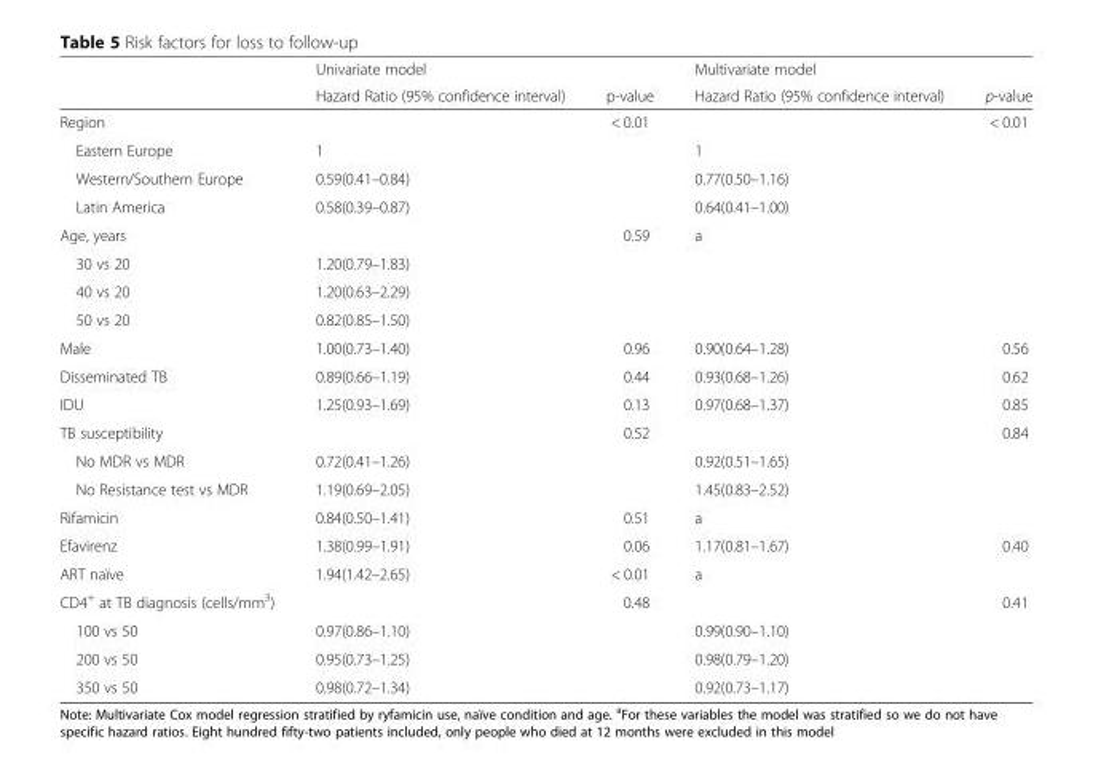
<table><thead><tr><td rowspan="2"></td><td rowspan="2">Univariate model Hazard Ratio (95% confidence interval)</td><td rowspan="2">p-value</td><td rowspan="2">Multivariate model Hazard Ratio (95% confidence interval)</td><td rowspan="2">p-value</td></tr><tr></tr></thead><tbody><tr><td>Region</td><td></td><td>&lt; 0.01</td><td></td><td>&lt; 0.01</td></tr><tr><td>Eastern Europe</td><td>1</td><td></td><td>1</td><td></td></tr><tr><td>Western/Southern Europe</td><td>0.59(0.41–0.84)</td><td></td><td>0.77(0.50–1.16)</td><td></td></tr><tr><td>Latin America</td><td>0.58(0.39–0.87)</td><td></td><td>0.64(0.41–1.00)</td><td></td></tr><tr><td>Age, years</td><td></td><td>0.59</td><td>a</td><td></td></tr><tr><td>30 vs 20</td><td>1.20(0.79–1.83)</td><td></td><td></td><td></td></tr><tr><td>40 vs 20</td><td>1.20(0.63–2.29)</td><td></td><td></td><td></td></tr><tr><td>50 vs 20</td><td>0.82(0.85–1.50)</td><td></td><td></td><td></td></tr><tr><td>Male</td><td>1.00(0.73–1.40)</td><td>0.96</td><td>0.90(0.64–1.28)</td><td>0.56</td></tr><tr><td>Disseminated TB</td><td>0.89(0.66–1.19)</td><td>0.44</td><td>0.93(0.68–1.26)</td><td>0.62</td></tr><tr><td>IDU</td><td>1.25(0.93–1.69)</td><td>0.13</td><td>0.97(0.68–1.37)</td><td>0.85</td></tr><tr><td>TB susceptibility</td><td></td><td>0.52</td><td></td><td>0.84</td></tr><tr><td>No MDR vs MDR</td><td>0.72(0.41–1.26)</td><td></td><td>0.92(0.51–1.65)</td><td></td></tr><tr><td>No Resistance test vs MDR</td><td>1.19(0.69–2.05)</td><td></td><td>1.45(0.83–2.52)</td><td></td></tr><tr><td>Rifamicin</td><td>0.84(0.50–1.41)</td><td>0.51</td><td>a</td><td></td></tr><tr><td>Efavirenz</td><td>1.38(0.99–1.91)</td><td>0.06</td><td>1.17(0.81–1.67)</td><td>0.40</td></tr><tr><td>ART naïve</td><td>1.94(1.42–2.65)</td><td>&lt; 0.01</td><td>a</td><td></td></tr><tr><td>CD4<sup>+</sup> at TB diagnosis (cells/mm<sup>3</sup>)</td><td></td><td>0.48</td><td></td><td>0.41</td></tr><tr><td>100 vs 50</td><td>0.97(0.86–1.10)</td><td></td><td>0.99(0.90–1.10)</td><td></td></tr><tr><td>200 vs 50</td><td>0.95(0.73–1.25)</td><td></td><td>0.98(0.79–1.20)</td><td></td></tr><tr><td>350 vs 50</td><td>0.98(0.72–1.34)</td><td></td><td>0.92(0.73–1.17)</td><td></td></tr></tbody></table>